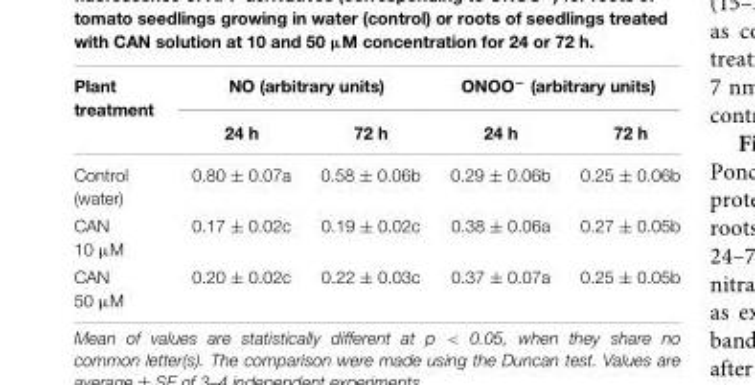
<table><thead><tr><td rowspan="2">Plant treatment</td><td colspan="2">NO (arbitrary units)</td><td colspan="2">ONOO<sup>−</sup> (arbitrary units)</td></tr><tr><td>24 h</td><td>72 h</td><td>24 h</td><td>72 h</td></tr></thead><tbody><tr><td>Control (water)</td><td>0.80 ± 0.07a</td><td>0.58 ± 0.06b</td><td>0.29 ± 0.06b</td><td>0.25 ± 0.06b</td></tr><tr><td>CAN 10 µM</td><td>0.17 ± 0.02c</td><td>0.19 ± 0.02c</td><td>0.38 ± 0.06a</td><td>0.27 ± 0.05b</td></tr><tr><td>CAN 50 µM</td><td>0.20 ± 0.02c</td><td>0.22 ± 0.03c</td><td>0.37 ± 0.07a</td><td>0.25 ± 0.05b</td></tr></tbody></table>